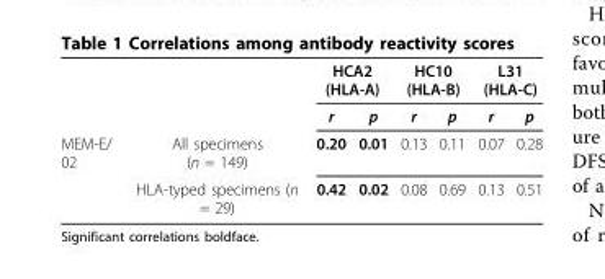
<table><thead><tr><td rowspan="2"></td><td rowspan="2"></td><td colspan="2">HCA2 (HLA-A)</td><td colspan="2">HC10 (HLA-B)</td><td colspan="2">L31 (HLA-C)</td></tr><tr><td>r</td><td>p</td><td>r</td><td>p</td><td>r</td><td>p</td></tr></thead><tbody><tr><td rowspan="2">MEM-E/ 02</td><td>All specimens (n = 149)</td><td>0.20</td><td>0.01</td><td>0.13</td><td>0.11</td><td>0.07</td><td>0.28</td></tr><tr><td>HLA-typed specimens (n = 29)</td><td>0.42</td><td>0.02</td><td>0.08</td><td>0.69</td><td>0.13</td><td>0.51</td></tr></tbody></table>